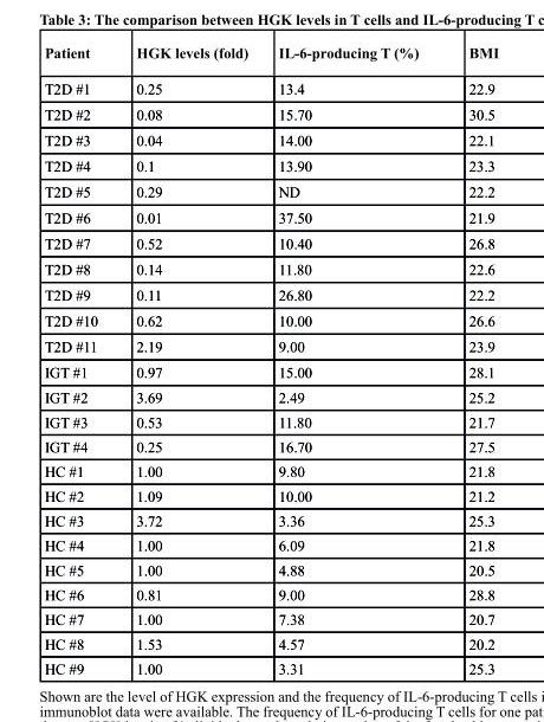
<table><thead><tr><td>Patient</td><td>HGK levels (fold)</td><td>IL-6-producing t (%)</td><td>bMI</td></tr></thead><tbody><tr><td>T2D #1</td><td>0.25</td><td>13.4</td><td>22.9</td></tr><tr><td>T2D #2</td><td>0.08</td><td>15.70</td><td>30.5</td></tr><tr><td>T2D #3</td><td>0.04</td><td>14.00</td><td>22.1</td></tr><tr><td>T2D #4</td><td>0.1</td><td>13.90</td><td>23.3</td></tr><tr><td>T2D #5</td><td>0.29</td><td>ND</td><td>22.2</td></tr><tr><td>T2D #6</td><td>0.01</td><td>37.50</td><td>21.9</td></tr><tr><td>T2D #7</td><td>0.52</td><td>10.40</td><td>26.8</td></tr><tr><td>T2D #8</td><td>0.14</td><td>11.80</td><td>22.6</td></tr><tr><td>T2D #9</td><td>0.11</td><td>26.80</td><td>22.2</td></tr><tr><td>T2D #10</td><td>0.62</td><td>10.00</td><td>26.6</td></tr><tr><td>T2D #11</td><td>2.19</td><td>9.00</td><td>23.9</td></tr><tr><td>IGT #1</td><td>0.97</td><td>15.00</td><td>28.1</td></tr><tr><td>IGT #2</td><td>3.69</td><td>2.49</td><td>25.2</td></tr><tr><td>IGT #3</td><td>0.53</td><td>11.80</td><td>21.7</td></tr><tr><td>IGT #4</td><td>0.25</td><td>16.70</td><td>27.5</td></tr><tr><td>HC #1</td><td>1.00</td><td>9.80</td><td>21.8</td></tr><tr><td>HC #2</td><td>1.09</td><td>10.00</td><td>21.2</td></tr><tr><td>HC #3</td><td>3.72</td><td>3.36</td><td>25.3</td></tr><tr><td>HC #4</td><td>1.00</td><td>6.09</td><td>21.8</td></tr><tr><td>HC #5</td><td>1.00</td><td>4.88</td><td>20.5</td></tr><tr><td>HC #6</td><td>0.81</td><td>9.00</td><td>28.8</td></tr><tr><td>HC #7</td><td>1.00</td><td>7.38</td><td>20.7</td></tr><tr><td>HC #8</td><td>1.53</td><td>4.57</td><td>20.2</td></tr><tr><td>HC #9</td><td>1.00</td><td>3.31</td><td>25.3</td></tr></tbody></table>